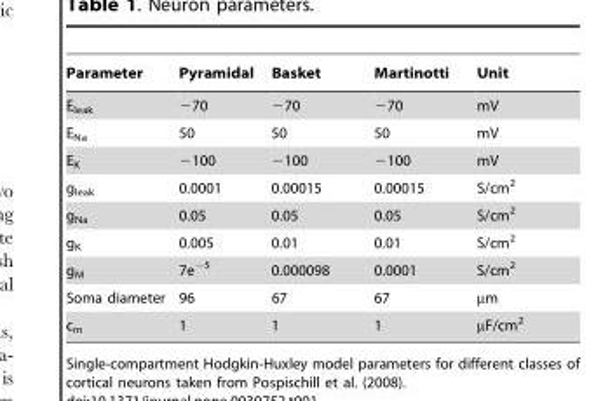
<table><thead><tr><td>Parameter</td><td>Pyramidal</td><td>Basket</td><td>Martinotti</td><td>Unit</td></tr></thead><tbody><tr><td>E<sub>leak</sub></td><td>−70</td><td>−70</td><td>−70</td><td>mV</td></tr><tr><td>E<sub>Na</sub></td><td>50</td><td>50</td><td>50</td><td>mV</td></tr><tr><td>E<sub>K</sub></td><td>−100</td><td>−100</td><td>−100</td><td>mV</td></tr><tr><td>g<sub>leak</sub></td><td>0.0001</td><td>0.00015</td><td>0.00015</td><td>S/cm<sup>2</sup></td></tr><tr><td>g<sub>Na</sub></td><td>0.05</td><td>0.05</td><td>0.05</td><td>S/cm<sup>2</sup></td></tr><tr><td>g<sub>K</sub></td><td>0.005</td><td>0.01</td><td>0.01</td><td>S/cm<sup>2</sup></td></tr><tr><td>g<sub>M</sub></td><td>7e<sup>−5</sup></td><td>0.000098</td><td>0.0001</td><td>S/cm<sup>2</sup></td></tr><tr><td>Soma diameter</td><td>96</td><td>67</td><td>67</td><td>µm</td></tr><tr><td>c<sub>m</sub></td><td>1</td><td>1</td><td>1</td><td>µF/cm<sup>2</sup></td></tr></tbody></table>